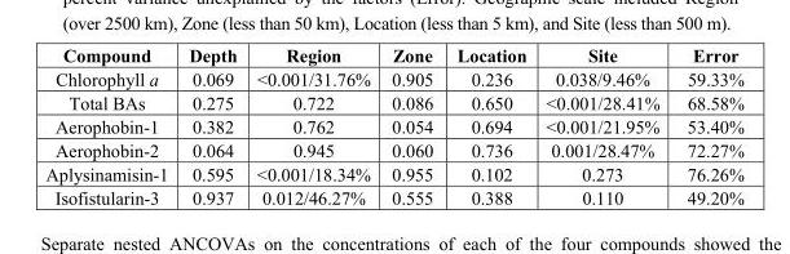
<table><thead><tr><td>Compound</td><td>Depth</td><td>Region</td><td>Zone</td><td>Location</td><td>Site</td><td>Error</td></tr></thead><tbody><tr><td>Chlorophyll a</td><td>0.069</td><td>&lt;0.001/31.76%</td><td>0.905</td><td>0.236</td><td>0.038/9.46%</td><td>59.33%</td></tr><tr><td>Total BAs</td><td>0.275</td><td>0.722</td><td>0.086</td><td>0.650</td><td>&lt;0.001/28.41%</td><td>68.58%</td></tr><tr><td>Aerophobin-1</td><td>0.382</td><td>0.762</td><td>0.054</td><td>0.694</td><td>&lt;0.001/21.95%</td><td>53.40%</td></tr><tr><td>Aerophobin-2</td><td>0.064</td><td>0.945</td><td>0.060</td><td>0.736</td><td>0.001/28.47%</td><td>72.27%</td></tr><tr><td>Aplysinamisin-1</td><td>0.595</td><td>&lt;0.001/18.34%</td><td>0.955</td><td>0.102</td><td>0.273</td><td>76.26%</td></tr><tr><td>Isofistularin-3</td><td>0.937</td><td>0.012/46.27%</td><td>0.555</td><td>0.388</td><td>0.110</td><td>49.20%</td></tr></tbody></table>